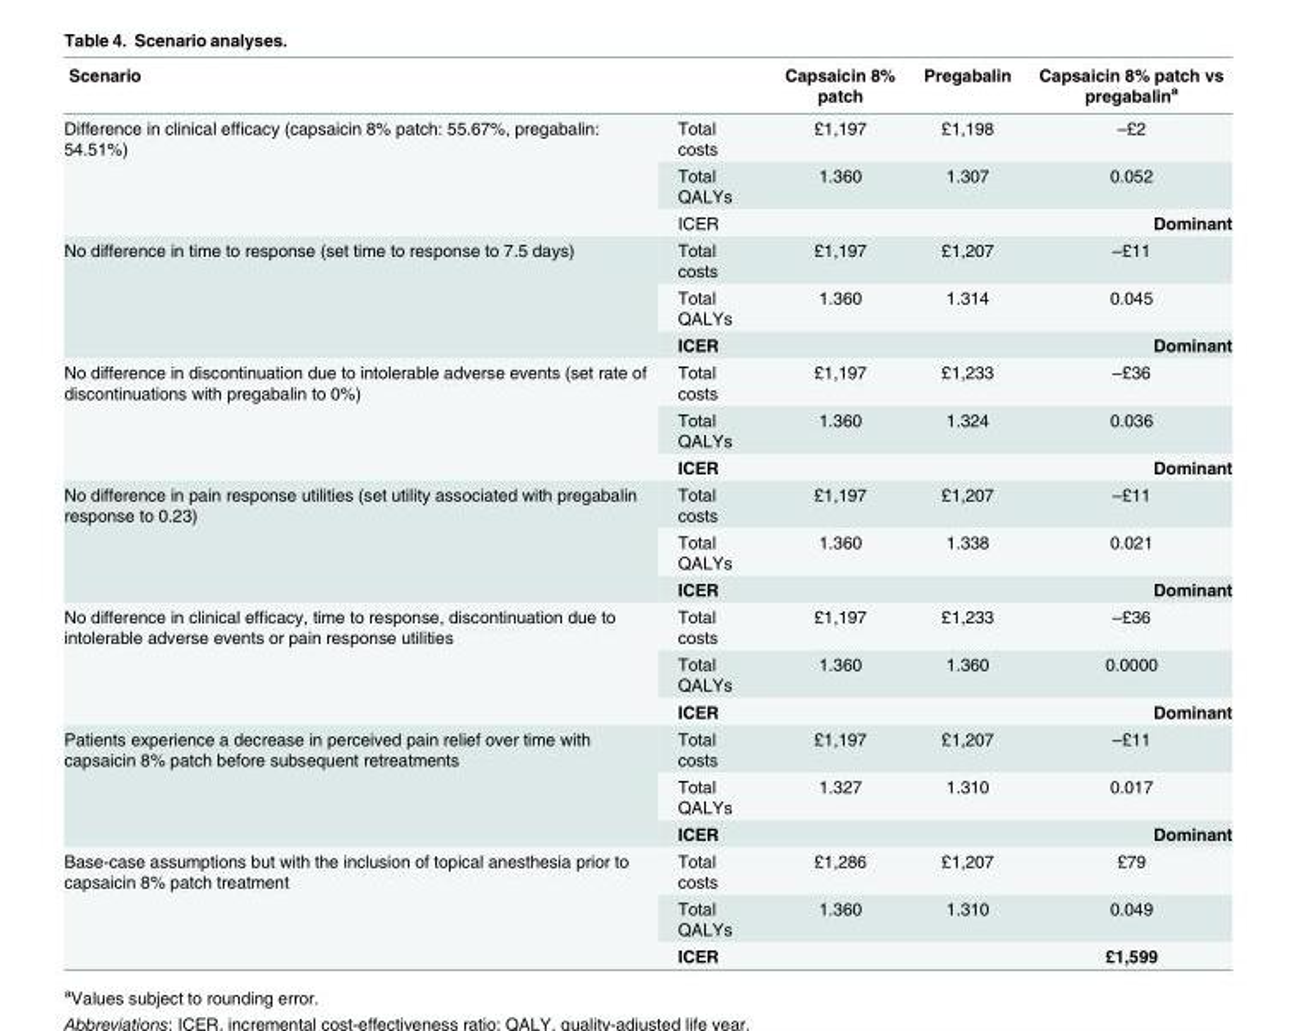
<table><thead><tr><td>Scenario</td><td></td><td>Capsaicin 8% patch</td><td>Pregabalin</td><td>Capsaicin 8% patch vs pregabalin<sup>a</sup></td></tr></thead><tbody><tr><td rowspan="3">Difference in clinical efficacy (capsaicin 8% patch: 55.67%, pregabalin: 54.51%)</td><td>Total costs</td><td>£1,197</td><td>£1,198</td><td>–£2</td></tr><tr><td>Total QALYs</td><td>1.360</td><td>1.307</td><td>0.052</td></tr><tr><td>ICER</td><td colspan="3">Dominant</td></tr><tr><td rowspan="3">No difference in time to response (set time to response to 7.5 days)</td><td>Total costs</td><td>£1,197</td><td>£1,207</td><td>–£11</td></tr><tr><td>Total QALYs</td><td>1.360</td><td>1.314</td><td>0.045</td></tr><tr><td>ICER</td><td colspan="3">Dominant</td></tr><tr><td rowspan="3">No difference in discontinuation due to intolerable adverse events (set rate of discontinuations with pregabalin to 0%)</td><td>Total costs</td><td>£1,197</td><td>£1,233</td><td>–£36</td></tr><tr><td>Total QALYs</td><td>1.360</td><td>1.324</td><td>0.036</td></tr><tr><td>ICER</td><td colspan="3">Dominant</td></tr><tr><td rowspan="3">No difference in pain response utilities (set utility associated with pregabalin response to 0.23)</td><td>Total costs</td><td>£1,197</td><td>£1,207</td><td>–£11</td></tr><tr><td>Total QALYs</td><td>1.360</td><td>1.338</td><td>0.021</td></tr><tr><td>ICER</td><td colspan="3">Dominant</td></tr><tr><td rowspan="3">No difference in clinical efficacy, time to response, discontinuation due to intolerable adverse events or pain response utilities</td><td>Total costs</td><td>£1,197</td><td>£1,233</td><td>–£36</td></tr><tr><td>Total QALYs</td><td>1.360</td><td>1.360</td><td>0.0000</td></tr><tr><td>ICER</td><td colspan="3">Dominant</td></tr><tr><td rowspan="3">Patients experience a decrease in perceived pain relief over time with capsaicin 8% patch before subsequent retreatments</td><td>Total costs</td><td>£1,197</td><td>£1,207</td><td>–£11</td></tr><tr><td>Total QALYs</td><td>1.327</td><td>1.310</td><td>0.017</td></tr><tr><td>ICER</td><td colspan="3">Dominant</td></tr><tr><td rowspan="3">Base-case assumptions but with the inclusion of topical anesthesia prior to capsaicin 8% patch treatment</td><td>Total costs</td><td>£1,286</td><td>£1,207</td><td>£79</td></tr><tr><td>Total QALYs</td><td>1.360</td><td>1.310</td><td>0.049</td></tr><tr><td>ICER</td><td></td><td></td><td>£1,599</td></tr></tbody></table>